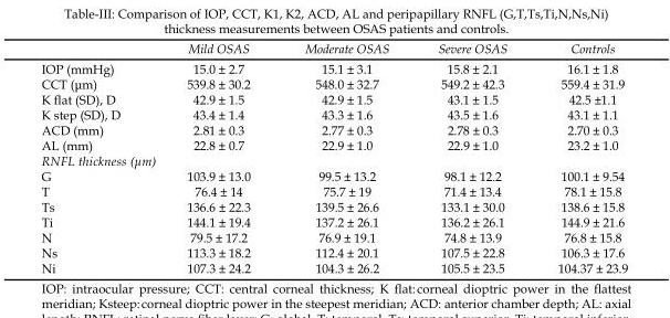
<table><thead><tr><td></td><td>Mild OSAS</td><td>Moderate OSAS</td><td>Severe OSAS</td><td>Controls</td></tr></thead><tbody><tr><td>IOP (mmHg)</td><td>15.0 ± 2.7</td><td>15.1 ± 3.1</td><td>15.8 ± 2.1</td><td>16.1 ± 1.8</td></tr><tr><td>CCT (μm)</td><td>539.8 ± 30.2</td><td>548.0 ± 32.7</td><td>549.2 ± 42.3</td><td>559.4 ± 31.9</td></tr><tr><td>K flat (SD), D</td><td>42.9 ± 1.5</td><td>42.9 ± 1.5</td><td>43.1 ± 1.5</td><td>42.5 ±1.1</td></tr><tr><td>K step (SD), D</td><td>43.4 ± 1.4</td><td>43.3 ± 1.6</td><td>43.5 ± 1.6</td><td>43.1 ± 1.1</td></tr><tr><td>ACD (mm)</td><td>2.81 ± 0.3</td><td>2.77 ± 0.3</td><td>2.78 ± 0.3</td><td>2.70 ± 0.3</td></tr><tr><td>AL (mm)</td><td>22.8 ± 0.7</td><td>22.9 ± 1.0</td><td>22.9 ± 1.0</td><td>23.2 ± 1.0</td></tr><tr><td colspan="5">RNFL thickness (μm)</td></tr><tr><td>G</td><td>103.9 ± 13.0</td><td>99.5 ± 13.2</td><td>98.1 ± 12.2</td><td>100.1 ± 9.54</td></tr><tr><td>T</td><td>76.4 ± 14</td><td>75.7 ± 19</td><td>71.4 ± 13.4</td><td>78.1 ± 15.8</td></tr><tr><td>Ts</td><td>136.6 ± 22.3</td><td>139.5 ± 26.6</td><td>133.1 ± 30.0</td><td>138.6 ± 15.8</td></tr><tr><td>Ti</td><td>144.1 ± 19.4</td><td>137.2 ± 26.1</td><td>136.2 ± 26.1</td><td>144.9 ± 21.6</td></tr><tr><td>N</td><td>79.5 ± 17.2</td><td>76.9 ± 19.1</td><td>74.8 ± 13.9</td><td>76.8 ± 15.8</td></tr><tr><td>Ns</td><td>113.3 ± 18.2</td><td>112.4 ± 20.1</td><td>107.5 ± 22.8</td><td>106.3 ± 17.6</td></tr><tr><td>Ni</td><td>107.3 ± 24.2</td><td>104.3 ± 26.2</td><td>105.5 ± 23.5</td><td>104.37 ± 23.9</td></tr></tbody></table>